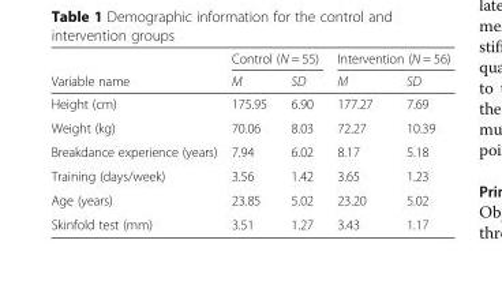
<table><thead><tr><td rowspan="2">Variable name</td><td colspan="2">Control (N = 55)</td><td colspan="2">Intervention (N = 56)</td></tr><tr><td>M</td><td>SD</td><td>M</td><td>SD</td></tr></thead><tbody><tr><td>Height (cm)</td><td>175.95</td><td>6.90</td><td>177.27</td><td>7.69</td></tr><tr><td>Weight (kg)</td><td>70.06</td><td>8.03</td><td>72.27</td><td>10.39</td></tr><tr><td>Breakdance experience (years)</td><td>7.94</td><td>6.02</td><td>8.17</td><td>5.18</td></tr><tr><td>Training (days/week)</td><td>3.56</td><td>1.42</td><td>3.65</td><td>1.23</td></tr><tr><td>Age (years)</td><td>23.85</td><td>5.02</td><td>23.20</td><td>5.02</td></tr><tr><td>Skinfold test (mm)</td><td>3.51</td><td>1.27</td><td>3.43</td><td>1.17</td></tr></tbody></table>